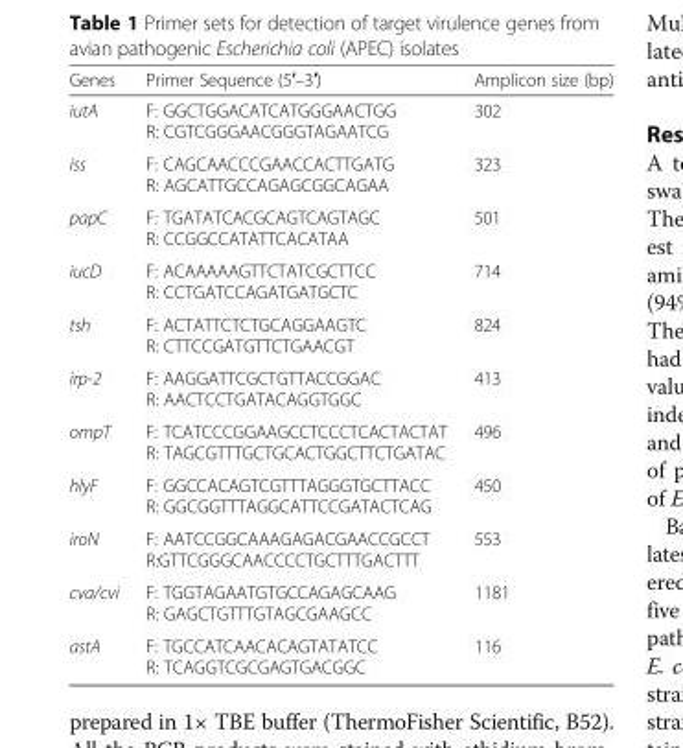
<table><thead><tr><td>Genes</td><td>Primer Sequence (5′–3′)</td><td>Amplicon size (bp)</td></tr></thead><tbody><tr><td>iutA</td><td>F: GGCTGGACATCATGGGAACTGG R: CGTCGGGAACGGGTAGAATCG</td><td>302</td></tr><tr><td>iss</td><td>F: CAGCAACCCGAACCACTTGATG R: AGCATTGCCAGAGCGGCAGAA</td><td>323</td></tr><tr><td>papC</td><td>F: TGATATCACGCAGTCAGTAGC R: CCGGCCATATTCACATAA</td><td>501</td></tr><tr><td>iucD</td><td>F: ACAAAAAGTTCTATCGCTTCC R: CCTGATCCAGATGATGCTC</td><td>714</td></tr><tr><td>tsh</td><td>F: ACTATTCTCTGCAGGAAGTC R: CTTCCGATGTTCTGAACGT</td><td>824</td></tr><tr><td>irp-2</td><td>F: AAGGATTCGCTGTTACCGGAC R: AACTCCTGATACAGGTGGC</td><td>413</td></tr><tr><td>ompT</td><td>F: TCATCCCGGAAGCCTCCCTCACTACTAT R: TAGCGTTTGCTGCACTGGCTTCTGATAC</td><td>496</td></tr><tr><td>hlyF</td><td>F: GGCCACAGTCGTTTAGGGTGCTTACC R: GGCGGTTTAGGCATTCCGATACTCAG</td><td>450</td></tr><tr><td>iroN</td><td>F: AATCCGGCAAAGAGACGAACCGCCT R:GTTCGGGCAACCCCTGCTTTGACTTT</td><td>553</td></tr><tr><td>cva/cvi</td><td>F: TGGTAGAATGTGCCAGAGCAAG R: GAGCTGTTTGTAGCGAAGCC</td><td>1181</td></tr><tr><td>astA</td><td>F: TGCCATCAACACAGTATATCC R: TCAGGTCGCGAGTGACGGC</td><td>116</td></tr></tbody></table>